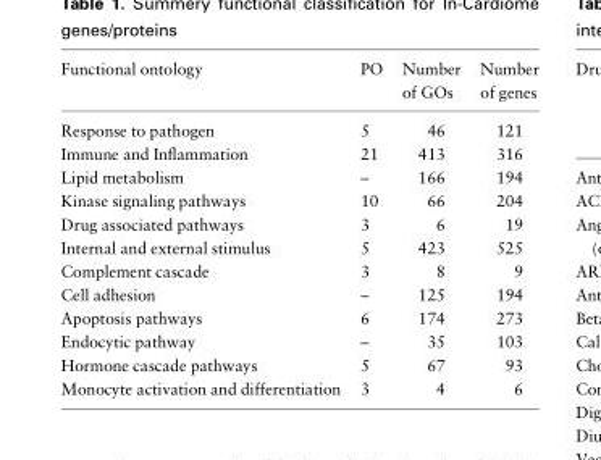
<table><thead><tr><td>Functional ontology</td><td>PO</td><td>Number of GOs</td><td>Number of genes</td></tr></thead><tbody><tr><td>Response to pathogen</td><td>5</td><td>46</td><td>121</td></tr><tr><td>Immune and Inflammation</td><td>21</td><td>413</td><td>316</td></tr><tr><td>Lipid metabolism</td><td>–</td><td>166</td><td>194</td></tr><tr><td>Kinase signaling pathways</td><td>10</td><td>66</td><td>204</td></tr><tr><td>Drug associated pathways</td><td>3</td><td>6</td><td>19</td></tr><tr><td>Internal and external stimulus</td><td>5</td><td>423</td><td>525</td></tr><tr><td>Complement cascade</td><td>3</td><td>8</td><td>9</td></tr><tr><td>Cell adhesion</td><td>–</td><td>125</td><td>194</td></tr><tr><td>Apoptosis pathways</td><td>6</td><td>174</td><td>273</td></tr><tr><td>Endocytic pathway</td><td>–</td><td>35</td><td>103</td></tr><tr><td>Hormone cascade pathways</td><td>5</td><td>67</td><td>93</td></tr><tr><td>Monocyte activation and differentiation</td><td>3</td><td>4</td><td>6</td></tr></tbody></table>